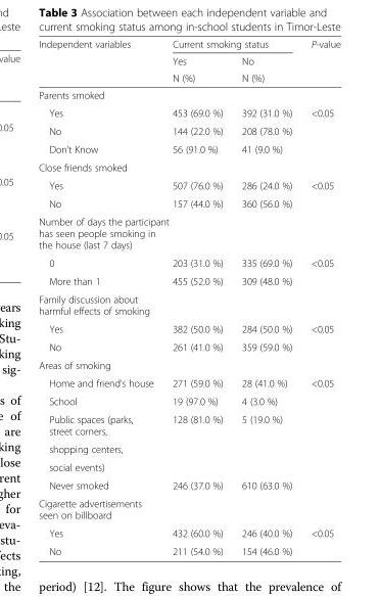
<table><thead><tr><td rowspan="3">Independent variables</td><td colspan="2">Current smoking status</td><td rowspan="3">P-value</td></tr><tr><td rowspan="2">Yes N (%)</td><td rowspan="2">No N (%)</td></tr><tr></tr></thead><tbody><tr><td colspan="4">Parents smoked</td></tr><tr><td>Yes</td><td>453 (69.0 %)</td><td>392 (31.0 %)</td><td rowspan="3">&lt;0.05</td></tr><tr><td>No</td><td>144 (22.0 %)</td><td>208 (78.0 %)</td></tr><tr><td>Don’t Know</td><td>56 (91.0 %)</td><td>41 (9.0 %)</td></tr><tr><td colspan="4">Close friends smoked</td></tr><tr><td>Yes</td><td>507 (76.0 %)</td><td>286 (24.0 %)</td><td rowspan="2">&lt;0.05</td></tr><tr><td>No</td><td>157 (44.0 %)</td><td>360 (56.0 %)</td></tr><tr><td colspan="4">Number of days the participant has seen people smoking in the house (last 7 days)</td></tr><tr><td>0</td><td>203 (31.0 %)</td><td>335 (69.0 %)</td><td rowspan="2">&lt;0.05</td></tr><tr><td>More than 1</td><td>455 (52.0 %)</td><td>309 (48.0 %)</td></tr><tr><td colspan="4">Family discussion about harmful effects of smoking</td></tr><tr><td>Yes</td><td>382 (50.0 %)</td><td>284 (50.0 %)</td><td rowspan="2">&lt;0.05</td></tr><tr><td>No</td><td>261 (41.0 %)</td><td>359 (59.0 %)</td></tr><tr><td colspan="4">Areas of smoking</td></tr><tr><td>Home and friend’s house</td><td>271 (59.0 %)</td><td>28 (41.0 %)</td><td rowspan="6">&lt;0.05</td></tr><tr><td>School</td><td>19 (97.0 %)</td><td>4 (3.0 %)</td></tr><tr><td>Public spaces (parks, street corners,</td><td rowspan="3">128 (81.0 %)</td><td rowspan="3">5 (19.0 %)</td></tr><tr><td>shopping centers,</td></tr><tr><td>social events)</td></tr><tr><td>Never smoked</td><td>246 (37.0 %)</td><td>610 (63.0 %)</td></tr><tr><td colspan="4">Cigarette advertisements seen on billboard</td></tr><tr><td>Yes</td><td>432 (60.0 %)</td><td>246 (40.0 %)</td><td>&lt;0.05</td></tr><tr><td>No</td><td>211 (54.0 %)</td><td>154 (46.0 %)</td><td></td></tr></tbody></table>